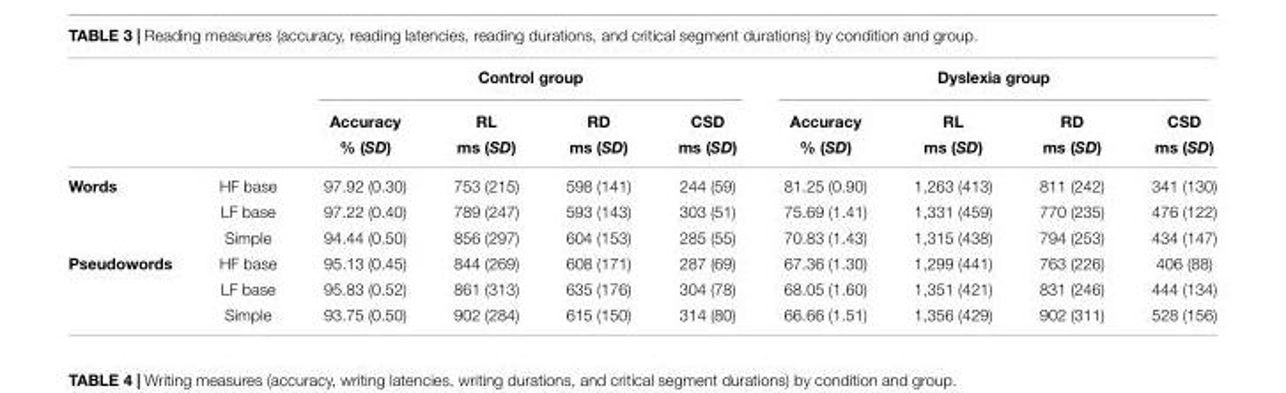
<table><thead><tr><td rowspan="3"></td><td rowspan="3"></td><td colspan="4">Control group</td><td colspan="4">Dyslexia group</td></tr><tr><td rowspan="2">Accuracy % (SD)</td><td rowspan="2">RL ms (SD)</td><td rowspan="2">RD ms (SD)</td><td rowspan="2">CSD ms (SD)</td><td rowspan="2">Accuracy % (SD)</td><td rowspan="2">RL ms (SD)</td><td rowspan="2">RD ms (SD)</td><td rowspan="2">CSD ms (SD)</td></tr><tr></tr></thead><tbody><tr><td rowspan="3">Words</td><td>HF base</td><td>97.92 (0.30)</td><td>753 (215)</td><td>598 (141)</td><td>244 (59)</td><td>81.25 (0.90)</td><td>1,263 (413)</td><td>811 (242)</td><td>341 (130)</td></tr><tr><td>LF base</td><td>97.22 (0.40)</td><td>789 (247)</td><td>593 (143)</td><td>303 (51)</td><td>75.69 (1.41)</td><td>1,331 (459)</td><td>770 (235)</td><td>476 (122)</td></tr><tr><td>Simple</td><td>94.44 (0.50)</td><td>856 (297)</td><td>604 (153)</td><td>285 (55)</td><td>70.83 (1.43)</td><td>1,315 (438)</td><td>794 (253)</td><td>434 (147)</td></tr><tr><td rowspan="3">Pseudowords</td><td>HF base</td><td>95.13 (0.45)</td><td>844 (269)</td><td>608 (171)</td><td>287 (69)</td><td>67.36 (1.30)</td><td>1,299 (441)</td><td>763 (226)</td><td>406 (88)</td></tr><tr><td>LF base</td><td>95.83 (0.52)</td><td>861 (313)</td><td>635 (176)</td><td>304 (78)</td><td>68.05 (1.60)</td><td>1,351 (421)</td><td>831 (246)</td><td>444 (134)</td></tr><tr><td>Simple</td><td>93.75 (0.50)</td><td>902 (284)</td><td>615 (150)</td><td>314 (80)</td><td>66.66 (1.51)</td><td>1,356 (429)</td><td>902 (311)</td><td>528 (156)</td></tr></tbody></table>